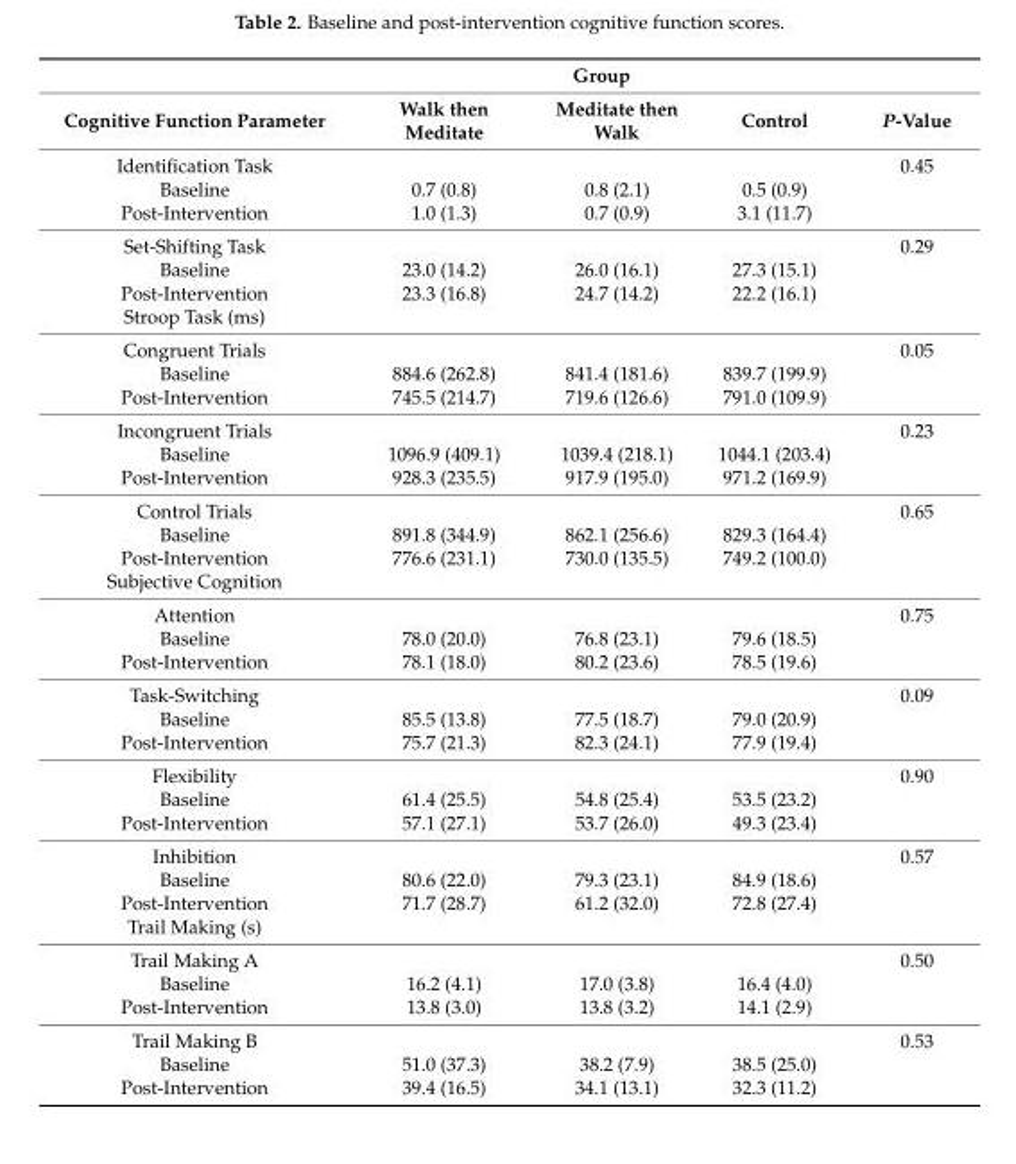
<table><thead><tr><td rowspan="2">Cognitive Function Parameter</td><td colspan="3">Group</td><td rowspan="2">P-Value</td></tr><tr><td>Walk then Meditate</td><td>Meditate then Walk</td><td>Control</td></tr></thead><tbody><tr><td>Identification Task</td><td></td><td></td><td></td><td>0.45</td></tr><tr><td>Baseline</td><td>0.7 (0.8)</td><td>0.8 (2.1)</td><td>0.5 (0.9)</td><td></td></tr><tr><td>Post-Intervention</td><td>1.0 (1.3)</td><td>0.7 (0.9)</td><td>3.1 (11.7)</td><td></td></tr><tr><td>Set-Shifting Task</td><td></td><td></td><td></td><td>0.29</td></tr><tr><td>Baseline</td><td>23.0 (14.2)</td><td>26.0 (16.1)</td><td>27.3 (15.1)</td><td></td></tr><tr><td>Post-Intervention</td><td>23.3 (16.8)</td><td>24.7 (14.2)</td><td>22.2 (16.1)</td><td></td></tr><tr><td colspan="5">Stroop Task (ms)</td></tr><tr><td>Congruent Trials</td><td></td><td></td><td></td><td>0.05</td></tr><tr><td>Baseline</td><td>884.6 (262.8)</td><td>841.4 (181.6)</td><td>839.7 (199.9)</td><td></td></tr><tr><td>Post-Intervention</td><td>745.5 (214.7)</td><td>719.6 (126.6)</td><td>791.0 (109.9)</td><td></td></tr><tr><td>Incongruent Trials</td><td></td><td></td><td></td><td>0.23</td></tr><tr><td>Baseline</td><td>1096.9 (409.1)</td><td>1039.4 (218.1)</td><td>1044.1 (203.4)</td><td></td></tr><tr><td>Post-Intervention</td><td>928.3 (235.5)</td><td>917.9 (195.0)</td><td>971.2 (169.9)</td><td></td></tr><tr><td>Control Trials</td><td></td><td></td><td></td><td>0.65</td></tr><tr><td>Baseline</td><td>891.8 (344.9)</td><td>862.1 (256.6)</td><td>829.3 (164.4)</td><td></td></tr><tr><td>Post-Intervention</td><td>776.6 (231.1)</td><td>730.0 (135.5)</td><td>749.2 (100.0)</td><td></td></tr><tr><td colspan="5">Subjective Cognition</td></tr><tr><td>Attention</td><td></td><td></td><td></td><td>0.75</td></tr><tr><td>Baseline</td><td>78.0 (20.0)</td><td>76.8 (23.1)</td><td>79.6 (18.5)</td><td></td></tr><tr><td>Post-Intervention</td><td>78.1 (18.0)</td><td>80.2 (23.6)</td><td>78.5 (19.6)</td><td></td></tr><tr><td>Task-Switching</td><td></td><td></td><td></td><td>0.09</td></tr><tr><td>Baseline</td><td>85.5 (13.8)</td><td>77.5 (18.7)</td><td>79.0 (20.9)</td><td></td></tr><tr><td>Post-Intervention</td><td>75.7 (21.3)</td><td>82.3 (24.1)</td><td>77.9 (19.4)</td><td></td></tr><tr><td>Flexibility</td><td></td><td></td><td></td><td>0.90</td></tr><tr><td>Baseline</td><td>61.4 (25.5)</td><td>54.8 (25.4)</td><td>53.5 (23.2)</td><td></td></tr><tr><td>Post-Intervention</td><td>57.1 (27.1)</td><td>53.7 (26.0)</td><td>49.3 (23.4)</td><td></td></tr><tr><td>Inhibition</td><td></td><td></td><td></td><td>0.57</td></tr><tr><td>Baseline</td><td>80.6 (22.0)</td><td>79.3 (23.1)</td><td>84.9 (18.6)</td><td></td></tr><tr><td>Post-Intervention</td><td>71.7 (28.7)</td><td>61.2 (32.0)</td><td>72.8 (27.4)</td><td></td></tr><tr><td colspan="5">Trail Making (s)</td></tr><tr><td>Trail Making A</td><td></td><td></td><td></td><td>0.50</td></tr><tr><td>Baseline</td><td>16.2 (4.1)</td><td>17.0 (3.8)</td><td>16.4 (4.0)</td><td></td></tr><tr><td>Post-Intervention</td><td>13.8 (3.0)</td><td>13.8 (3.2)</td><td>14.1 (2.9)</td><td></td></tr><tr><td>Trail Making B</td><td></td><td></td><td></td><td>0.53</td></tr><tr><td>Baseline</td><td>51.0 (37.3)</td><td>38.2 (7.9)</td><td>38.5 (25.0)</td><td></td></tr><tr><td>Post-Intervention</td><td>39.4 (16.5)</td><td>34.1 (13.1)</td><td>32.3 (11.2)</td><td></td></tr></tbody></table>